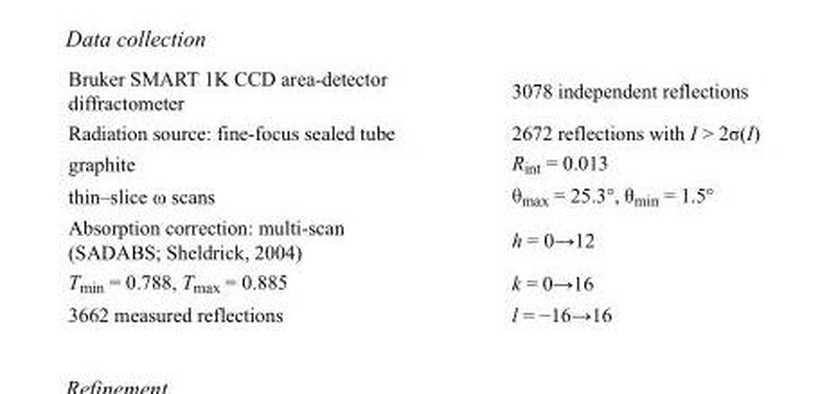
<table><tbody><tr><td>Bruker SMART 1K CCD area-detector diffractometer</td><td>3078 independent reflections</td></tr><tr><td>Radiation source: fine-focus sealed tube</td><td>2672 reflections with I &gt; 2σ(I)</td></tr><tr><td>graphite</td><td>R<sub>int</sub> = 0.013</td></tr><tr><td>thin–slice ω scans</td><td>θ<sub>max</sub> = 25.3°, θ<sub>min</sub> = 1.5°</td></tr><tr><td>Absorption correction: multi-scan (SADABS; Sheldrick, 2004)</td><td>h = 0→12</td></tr><tr><td>T<sub>min</sub> = 0.788, T<sub>max</sub> = 0.885</td><td>k = 0→16</td></tr><tr><td>3662 measured reflections</td><td>l = −16→16</td></tr></tbody></table>